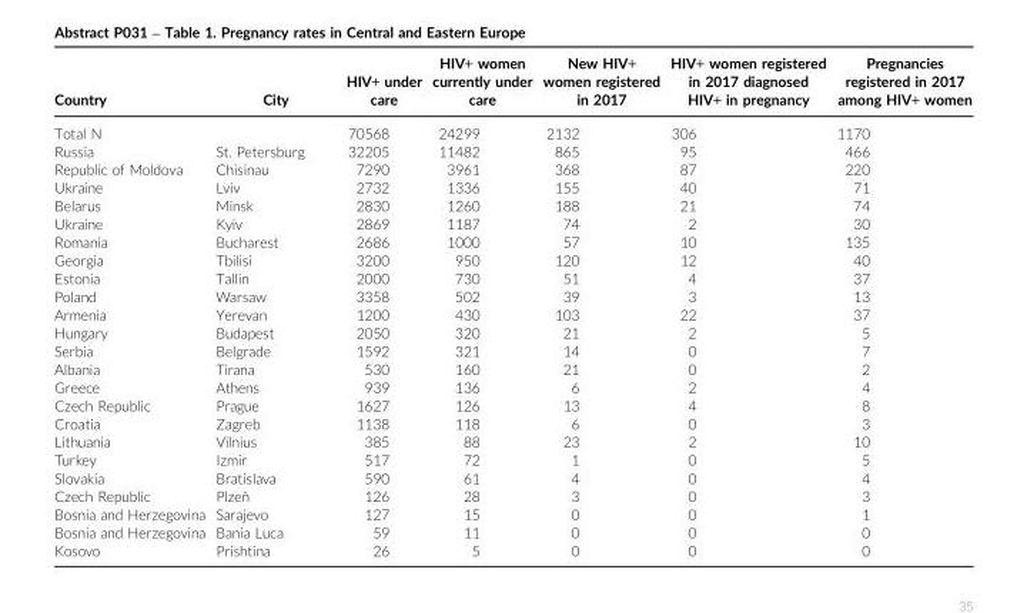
<table><thead><tr><td>Country</td><td>City</td><td>HIV+ under care</td><td>HIV+ women currently under care</td><td>New HIV+ women registered in 2017</td><td>HIV+ women registered in 2017 diagnosed HIV+ in pregnancy</td><td>Pregnancies registered in 2017 among HIV+ women</td></tr></thead><tbody><tr><td>Total N</td><td></td><td>70568</td><td>24299</td><td>2132</td><td>306</td><td>1170</td></tr><tr><td>Russia</td><td>St. Petersburg</td><td>32205</td><td>11482</td><td>865</td><td>95</td><td>466</td></tr><tr><td>Republic of Moldova</td><td>Chisinau</td><td>7290</td><td>3961</td><td>368</td><td>87</td><td>220</td></tr><tr><td>Ukraine</td><td>Lviv</td><td>2732</td><td>1336</td><td>155</td><td>40</td><td>71</td></tr><tr><td>Belarus</td><td>Minsk</td><td>2830</td><td>1260</td><td>188</td><td>21</td><td>74</td></tr><tr><td>Ukraine</td><td>Kyiv</td><td>2869</td><td>1187</td><td>74</td><td>2</td><td>30</td></tr><tr><td>Romania</td><td>Bucharest</td><td>2686</td><td>1000</td><td>57</td><td>10</td><td>135</td></tr><tr><td>Georgia</td><td>Tbilisi</td><td>3200</td><td>950</td><td>120</td><td>12</td><td>40</td></tr><tr><td>Estonia</td><td>Tallin</td><td>2000</td><td>730</td><td>51</td><td>4</td><td>37</td></tr><tr><td>Poland</td><td>Warsaw</td><td>3358</td><td>502</td><td>39</td><td>3</td><td>13</td></tr><tr><td>Armenia</td><td>Yerevan</td><td>1200</td><td>430</td><td>103</td><td>22</td><td>37</td></tr><tr><td>Hungary</td><td>Budapest</td><td>2050</td><td>320</td><td>21</td><td>2</td><td>5</td></tr><tr><td>Serbia</td><td>Belgrade</td><td>1592</td><td>321</td><td>14</td><td>0</td><td>7</td></tr><tr><td>Albania</td><td>Tirana</td><td>530</td><td>160</td><td>21</td><td>0</td><td>2</td></tr><tr><td>Greece</td><td>Athens</td><td>939</td><td>136</td><td>6</td><td>2</td><td>4</td></tr><tr><td>Czech Republic</td><td>Prague</td><td>1627</td><td>126</td><td>13</td><td>4</td><td>8</td></tr><tr><td>Croatia</td><td>Zagreb</td><td>1138</td><td>118</td><td>6</td><td>0</td><td>3</td></tr><tr><td>Lithuania</td><td>Vilnius</td><td>385</td><td>88</td><td>23</td><td>2</td><td>10</td></tr><tr><td>Turkey</td><td>Izmir</td><td>517</td><td>72</td><td>1</td><td>0</td><td>5</td></tr><tr><td>Slovakia</td><td>Bratislava</td><td>590</td><td>61</td><td>4</td><td>0</td><td>4</td></tr><tr><td>Czech Republic</td><td>Plze�n</td><td>126</td><td>28</td><td>3</td><td>0</td><td>3</td></tr><tr><td>Bosnia and Herzegovina</td><td>Sarajevo</td><td>127</td><td>15</td><td>0</td><td>0</td><td>1</td></tr><tr><td>Bosnia and Herzegovina</td><td>Bania Luca</td><td>59</td><td>11</td><td>0</td><td>0</td><td>0</td></tr><tr><td>Kosovo</td><td>Prishtina</td><td>26</td><td>5</td><td>0</td><td>0</td><td>0</td></tr></tbody></table>